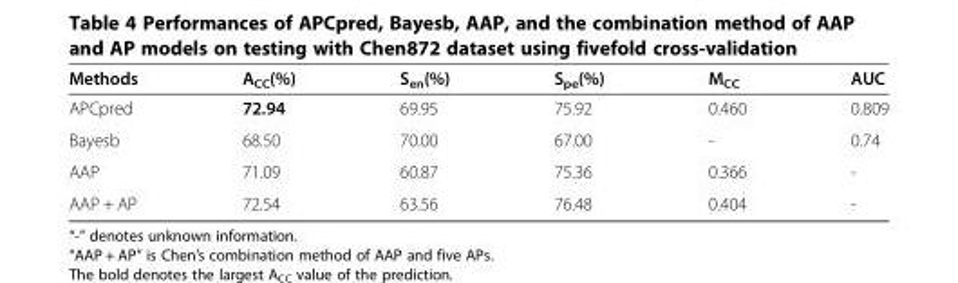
<table><thead><tr><td>Methods</td><td>A<sub>CC</sub>(%)</td><td>S<sub>en</sub>(%)</td><td>S<sub>pe</sub>(%)</td><td>M<sub>CC</sub></td><td>AUC</td></tr></thead><tbody><tr><td>APCpred</td><td>72.94</td><td>69.95</td><td>75.92</td><td>0.460</td><td>0.809</td></tr><tr><td>Bayesb</td><td>68.50</td><td>70.00</td><td>67.00</td><td>-</td><td>0.74</td></tr><tr><td>AAP</td><td>71.09</td><td>60.87</td><td>75.36</td><td>0.366</td><td>-</td></tr><tr><td>AAP + AP</td><td>72.54</td><td>63.56</td><td>76.48</td><td>0.404</td><td>-</td></tr></tbody></table>